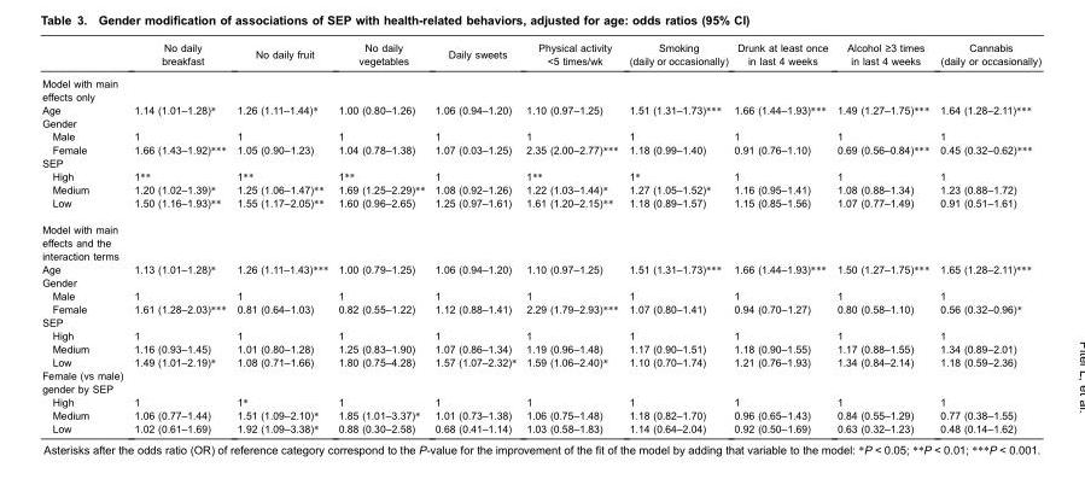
<table><thead><tr><td></td><td>No daily breakfast</td><td>No daily fruit</td><td>No daily vegetables</td><td>Daily sweets</td><td>Physical activity &lt;5 times/wk</td><td>Smoking (daily or occasionally)</td><td>Drunk at least once in last 4 weeks</td><td>Alcohol ≥3 times in last 4 weeks</td><td>Cannabis (daily or occasionally)</td></tr></thead><tbody><tr><td colspan="10">Model with main effects only</td></tr><tr><td>Age</td><td>1.14 (1.01–1.28)*</td><td>1.26 (1.11–1.44)*</td><td>1.00 (0.80–1.26)</td><td>1.06 (0.94–1.20)</td><td>1.10 (0.97–1.25)</td><td>1.51 (1.31–1.73)***</td><td>1.66 (1.44–1.93)***</td><td>1.49 (1.27–1.75)***</td><td>1.64 (1.28–2.11)***</td></tr><tr><td colspan="10">Gender</td></tr><tr><td>Male</td><td>1</td><td>1</td><td>1</td><td>1</td><td>1</td><td>1</td><td>1</td><td>1</td><td>1</td></tr><tr><td>Female</td><td>1.66 (1.43–1.92)***</td><td>1.05 (0.90–1.23)</td><td>1.04 (0.78–1.38)</td><td>1.07 (0.03–1.25)</td><td>2.35 (2.00–2.77)***</td><td>1.18 (0.99–1.40)</td><td>0.91 (0.76–1.10)</td><td>0.69 (0.56–0.84)***</td><td>0.45 (0.32–0.62)***</td></tr><tr><td colspan="10">SEP</td></tr><tr><td>High</td><td>1**</td><td>1**</td><td>1**</td><td>1</td><td>1**</td><td>1*</td><td>1</td><td>1</td><td>1</td></tr><tr><td>Medium</td><td>1.20 (1.02–1.39)*</td><td>1.25 (1.06–1.47)**</td><td>1.69 (1.25–2.29)**</td><td>1.08 (0.92–1.26)</td><td>1.22 (1.03–1.44)*</td><td>1.27 (1.05–1.52)*</td><td>1.16 (0.95–1.41)</td><td>1.08 (0.88–1.34)</td><td>1.23 (0.88–1.72)</td></tr><tr><td>Low</td><td>1.50 (1.16–1.93)**</td><td>1.55 (1.17–2.05)**</td><td>1.60 (0.96–2.65)</td><td>1.25 (0.97–1.61)</td><td>1.61 (1.20–2.15)**</td><td>1.18 (0.89–1.57)</td><td>1.15 (0.85–1.56)</td><td>1.07 (0.77–1.49)</td><td>0.91 (0.51–1.61)</td></tr><tr><td colspan="10">Model with main effects and the interaction terms</td></tr><tr><td>Age</td><td>1.13 (1.01–1.28)*</td><td>1.26 (1.11–1.43)***</td><td>1.00 (0.79–1.25)</td><td>1.06 (0.94–1.20)</td><td>1.10 (0.97–1.25)</td><td>1.51 (1.31–1.73)***</td><td>1.66 (1.44–1.93)***</td><td>1.50 (1.27–1.75)***</td><td>1.65 (1.28–2.11)***</td></tr><tr><td colspan="10">Gender</td></tr><tr><td>Male</td><td>1</td><td>1</td><td>1</td><td>1</td><td>1</td><td>1</td><td>1</td><td>1</td><td>1</td></tr><tr><td>Female</td><td>1.61 (1.28–2.03)***</td><td>0.81 (0.64–1.03)</td><td>0.82 (0.55–1.22)</td><td>1.12 (0.88–1.41)</td><td>2.29 (1.79–2.93)***</td><td>1.07 (0.80–1.41)</td><td>0.94 (0.70–1.27)</td><td>0.80 (0.58–1.10)</td><td>0.56 (0.32–0.96)*</td></tr><tr><td colspan="10">SEP</td></tr><tr><td>High</td><td>1</td><td>1</td><td>1</td><td>1</td><td>1</td><td>1</td><td>1</td><td>1</td><td>1</td></tr><tr><td>Medium</td><td>1.16 (0.93–1.45)</td><td>1.01 (0.80–1.28)</td><td>1.25 (0.83–1.90)</td><td>1.07 (0.86–1.34)</td><td>1.19 (0.96–1.48)</td><td>1.17 (0.90–1.51)</td><td>1.18 (0.90–1.55)</td><td>1.17 (0.88–1.55)</td><td>1.34 (0.89–2.01)</td></tr><tr><td>Low</td><td>1.49 (1.01–2.19)*</td><td>1.08 (0.71–1.66)</td><td>1.80 (0.75–4.28)</td><td>1.57 (1.07–2.32)*</td><td>1.59 (1.06–2.40)*</td><td>1.10 (0.70–1.74)</td><td>1.21 (0.76–1.93)</td><td>1.34 (0.84–2.14)</td><td>1.18 (0.59–2.36)</td></tr><tr><td colspan="10">Female (vs male) gender by SEP</td></tr><tr><td>High</td><td>1</td><td>1*</td><td>1</td><td>1</td><td>1</td><td>1</td><td>1</td><td>1</td><td>1</td></tr><tr><td>Medium</td><td>1.06 (0.77–1.44)</td><td>1.51 (1.09–2.10)*</td><td>1.85 (1.01–3.37)*</td><td>1.01 (0.73–1.38)</td><td>1.06 (0.75–1.48)</td><td>1.18 (0.82–1.70)</td><td>0.96 (0.65–1.43)</td><td>0.84 (0.55–1.29)</td><td>0.77 (0.38–1.55)</td></tr><tr><td>Low</td><td>1.02 (0.61–1.69)</td><td>1.92 (1.09–3.38)*</td><td>0.88 (0.30–2.58)</td><td>0.68 (0.41–1.14)</td><td>1.03 (0.58–1.83)</td><td>1.14 (0.64–2.04)</td><td>0.92 (0.50–1.69)</td><td>0.63 (0.32–1.23)</td><td>0.48 (0.14–1.62)</td></tr></tbody></table>